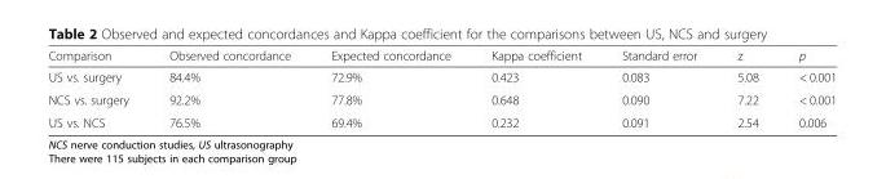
<table><thead><tr><td>Comparison</td><td>Observed concordance</td><td>Expected concordance</td><td>Kappa coefficient</td><td>Standard error</td><td>z</td><td>p</td></tr></thead><tbody><tr><td>US vs. surgery</td><td>84.4%</td><td>72.9%</td><td>0.423</td><td>0.083</td><td>5.08</td><td>&lt; 0.001</td></tr><tr><td>NCS vs. surgery</td><td>92.2%</td><td>77.8%</td><td>0.648</td><td>0.090</td><td>7.22</td><td>&lt; 0.001</td></tr><tr><td>US vs. NCS</td><td>76.5%</td><td>69.4%</td><td>0.232</td><td>0.091</td><td>2.54</td><td>0.006</td></tr></tbody></table>